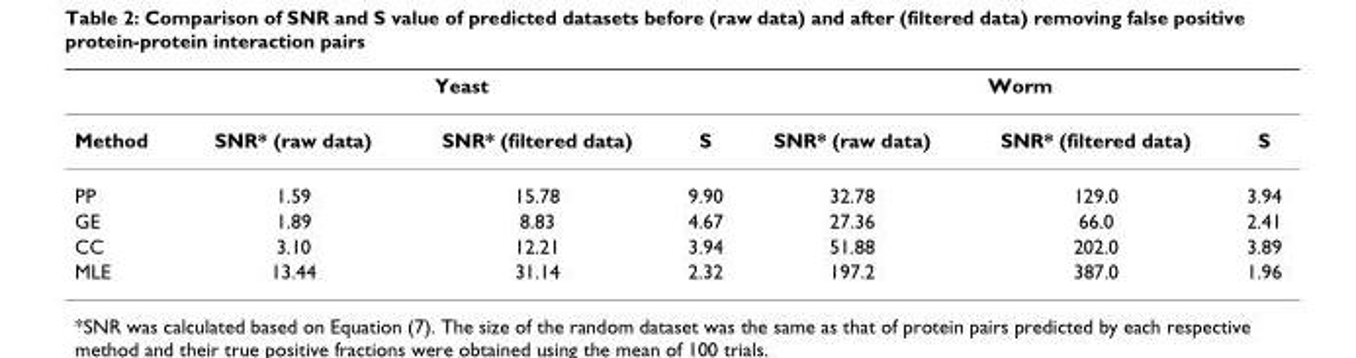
<table><thead><tr><td rowspan="2">Method</td><td colspan="3">Yeast</td><td colspan="3">Worm</td></tr><tr><td>SNR* (raw data)</td><td>SNR* (filtered data)</td><td>S</td><td>SNR* (raw data)</td><td>SNR* (filtered data)</td><td>S</td></tr></thead><tbody><tr><td>PP</td><td>1.59</td><td>15.78</td><td>9.90</td><td>32.78</td><td>129.0</td><td>3.94</td></tr><tr><td>GE</td><td>1.89</td><td>8.83</td><td>4.67</td><td>27.36</td><td>66.0</td><td>2.41</td></tr><tr><td>CC</td><td>3.10</td><td>12.21</td><td>3.94</td><td>51.88</td><td>202.0</td><td>3.89</td></tr><tr><td>MLE</td><td>13.44</td><td>31.14</td><td>2.32</td><td>197.2</td><td>387.0</td><td>1.96</td></tr></tbody></table>